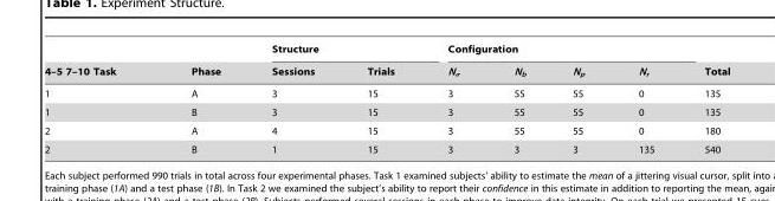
<table><thead><tr><td rowspan="2">4–5 7–10 Task</td><td rowspan="2">Phase</td><td colspan="2">Structure</td><td colspan="4">Configuration</td><td rowspan="2">Total</td></tr><tr><td>Sessions</td><td>Trials</td><td>N<sub>σ</sub></td><td>N<sub>b</sub></td><td>N<sub>p</sub></td><td>N<sub>r</sub></td></tr></thead><tbody><tr><td>1</td><td>A</td><td>3</td><td>15</td><td>3</td><td>55</td><td>55</td><td>0</td><td>135</td></tr><tr><td>1</td><td>B</td><td>3</td><td>15</td><td>3</td><td>55</td><td>55</td><td>0</td><td>135</td></tr><tr><td>2</td><td>A</td><td>4</td><td>15</td><td>3</td><td>55</td><td>55</td><td>0</td><td>180</td></tr><tr><td>2</td><td>B</td><td>1</td><td>15</td><td>3</td><td>3</td><td>3</td><td>135</td><td>540</td></tr></tbody></table>